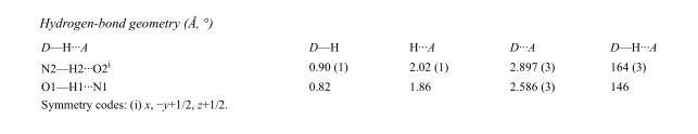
<table><tbody><tr><td>D—H···A</td><td>D—H</td><td>H···A</td><td>D···A</td><td>D—H···A</td></tr><tr><td>N2—H2···O2<sup>i</sup></td><td>0.90 (1)</td><td>2.02 (1)</td><td>2.897 (3)</td><td>164 (3)</td></tr><tr><td>O1—H1···N1</td><td>0.82</td><td>1.86</td><td>2.586 (3)</td><td>146</td></tr></tbody></table>